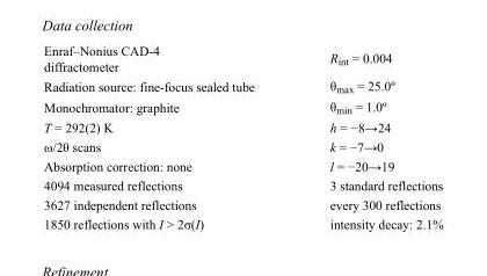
<table><tbody><tr><td>Enraf–Nonius CAD-4 diffractometer</td><td>R<sub>int</sub> = 0.004</td></tr><tr><td>Radiation source: fine-focus sealed tube</td><td>θ<sub>max</sub> = 25.0º</td></tr><tr><td>Monochromator: graphite</td><td>θ<sub>min</sub> = 1.0º</td></tr><tr><td>T = 292(2) K</td><td>h = −8→24</td></tr><tr><td>ω/2θ scans</td><td>k = −7→0</td></tr><tr><td>Absorption correction: none</td><td>l = −20→19</td></tr><tr><td>4094 measured reflections</td><td>3 standard reflections</td></tr><tr><td>3627 independent reflections</td><td>every 300 reflections</td></tr><tr><td>1850 reflections with I &gt; 2σ(I)</td><td>intensity decay: 2.1%</td></tr></tbody></table>